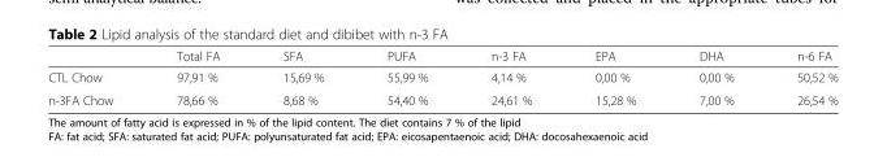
<table><thead><tr><td></td><td>Total FA</td><td>SFA</td><td>PUFA</td><td>n-3 FA</td><td>EPA</td><td>DHA</td><td>n-6 FA</td></tr></thead><tbody><tr><td>CTL Chow</td><td>97,91 %</td><td>15,69 %</td><td>55,99 %</td><td>4,14 %</td><td>0,00 %</td><td>0,00 %</td><td>50,52 %</td></tr><tr><td>n-3FA Chow</td><td>78,66 %</td><td>8,68 %</td><td>54,40 %</td><td>24,61 %</td><td>15,28 %</td><td>7,00 %</td><td>26,54 %</td></tr></tbody></table>